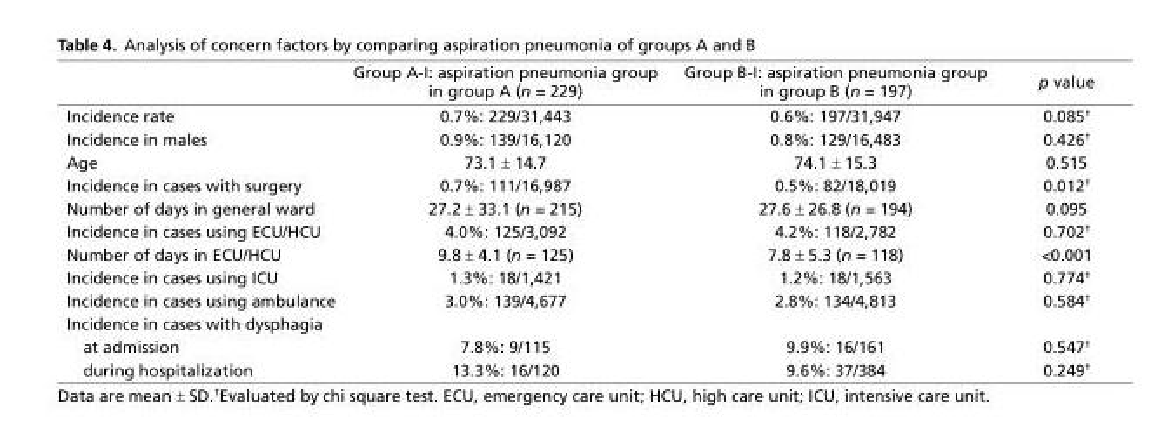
<table><thead><tr><td></td><td>Group A-I: aspiration pneumonia group in group A (n = 229)</td><td>Group B-I: aspiration pneumonia group in group B (n = 197)</td><td>p value</td></tr></thead><tbody><tr><td>Incidence rate</td><td>0.7%: 229/31,443</td><td>0.6%: 197/31,947</td><td>0.085<sup>†</sup></td></tr><tr><td>Incidence in males</td><td>0.9%: 139/16,120</td><td>0.8%: 129/16,483</td><td>0.426<sup>†</sup></td></tr><tr><td>Age</td><td>73.1 ± 14.7</td><td>74.1 ± 15.3</td><td>0.515</td></tr><tr><td>Incidence in cases with surgery</td><td>0.7%: 111/16,987</td><td>0.5%: 82/18,019</td><td>0.012<sup>†</sup></td></tr><tr><td>Number of days in general ward</td><td>27.2 ± 33.1 (n = 215)</td><td>27.6 ± 26.8 (n = 194)</td><td>0.095</td></tr><tr><td>Incidence in cases using ECU/HCU</td><td>4.0%: 125/3,092</td><td>4.2%: 118/2,782</td><td>0.702<sup>†</sup></td></tr><tr><td>Number of days in ECU/HCU</td><td>9.8 ± 4.1 (n = 125)</td><td>7.8 ± 5.3 (n = 118)</td><td>&lt;0.001</td></tr><tr><td>Incidence in cases using ICU</td><td>1.3%: 18/1,421</td><td>1.2%: 18/1,563</td><td>0.774<sup>†</sup></td></tr><tr><td>Incidence in cases using ambulance</td><td>3.0%: 139/4,677</td><td>2.8%: 134/4,813</td><td>0.584<sup>†</sup></td></tr><tr><td colspan="4">Incidence in cases with dysphagia</td></tr><tr><td>at admission</td><td>7.8%: 9/115</td><td>9.9%: 16/161</td><td>0.547<sup>†</sup></td></tr><tr><td>during hospitalization</td><td>13.3%: 16/120</td><td>9.6%: 37/384</td><td>0.249<sup>†</sup></td></tr></tbody></table>